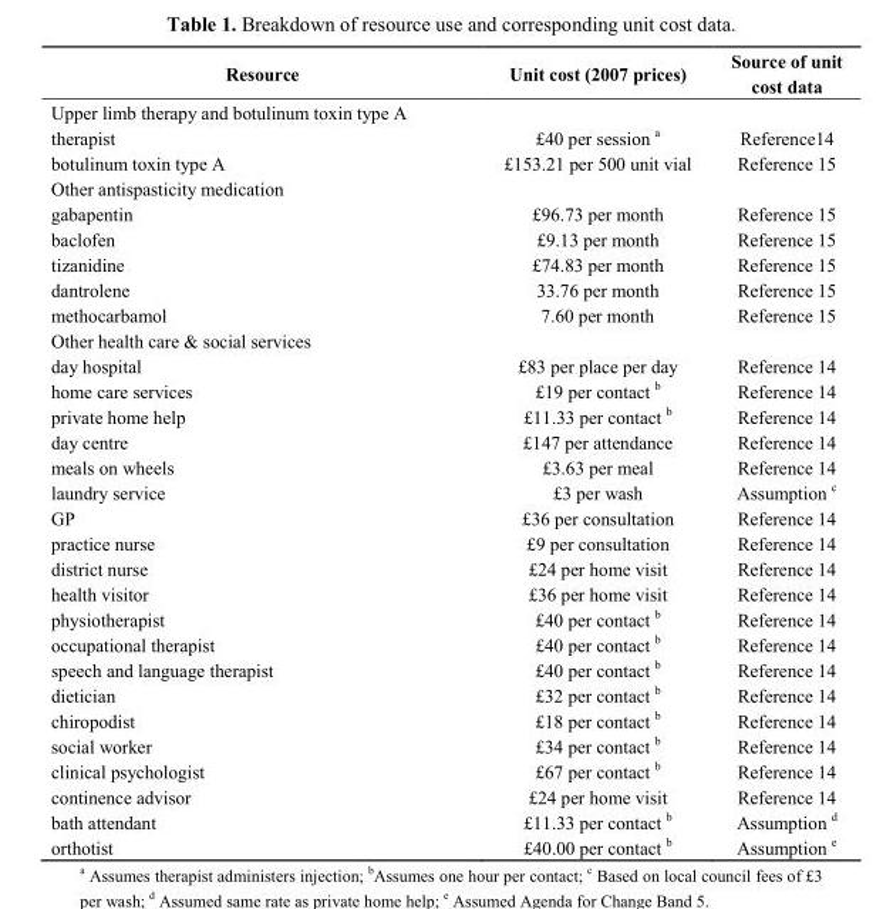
<table><thead><tr><td>Resource</td><td>Unit cost (2007 prices)</td><td>Source of unit cost data</td></tr></thead><tbody><tr><td colspan="3">Upper limb therapy and botulinum toxin type A</td></tr><tr><td>therapist</td><td>£40 per session <sup>a</sup></td><td>Reference14</td></tr><tr><td>botulinum toxin type A</td><td>£153.21 per 500 unit vial</td><td>Reference 15</td></tr><tr><td colspan="3">Other antispasticity medication</td></tr><tr><td>gabapentin</td><td>£96.73 per month</td><td>Reference 15</td></tr><tr><td>baclofen</td><td>£9.13 per month</td><td>Reference 15</td></tr><tr><td>tizanidine</td><td>£74.83 per month</td><td>Reference 15</td></tr><tr><td>dantrolene</td><td>33.76 per month</td><td>Reference 15</td></tr><tr><td>methocarbamol</td><td>7.60 per month</td><td>Reference 15</td></tr><tr><td colspan="3">Other health care &amp; social services</td></tr><tr><td>day hospital</td><td>£83 per place per day</td><td>Reference 14</td></tr><tr><td>home care services</td><td>£19 per contact <sup>b</sup></td><td>Reference 14</td></tr><tr><td>private home help</td><td>£11.33 per contact <sup>b</sup></td><td>Reference 14</td></tr><tr><td>day centre</td><td>£147 per attendance</td><td>Reference 14</td></tr><tr><td>meals on wheels</td><td>£3.63 per meal</td><td>Reference 14</td></tr><tr><td>laundry service</td><td>£3 per wash</td><td>Assumption <sup>c</sup></td></tr><tr><td>GP</td><td>£36 per consultation</td><td>Reference 14</td></tr><tr><td>practice nurse</td><td>£9 per consultation</td><td>Reference 14</td></tr><tr><td>district nurse</td><td>£24 per home visit</td><td>Reference 14</td></tr><tr><td>health visitor</td><td>£36 per home visit</td><td>Reference 14</td></tr><tr><td>physiotherapist</td><td>£40 per contact <sup>b</sup></td><td>Reference 14</td></tr><tr><td>occupational therapist</td><td>£40 per contact <sup>b</sup></td><td>Reference 14</td></tr><tr><td>speech and language therapist</td><td>£40 per contact <sup>b</sup></td><td>Reference 14</td></tr><tr><td>dietician</td><td>£32 per contact <sup>b</sup></td><td>Reference 14</td></tr><tr><td>chiropodist</td><td>£18 per contact <sup>b</sup></td><td>Reference 14</td></tr><tr><td>social worker</td><td>£34 per contact <sup>b</sup></td><td>Reference 14</td></tr><tr><td>clinical psychologist</td><td>£67 per contact <sup>b</sup></td><td>Reference 14</td></tr><tr><td>continence advisor</td><td>£24 per home visit</td><td>Reference 14</td></tr><tr><td>bath attendant</td><td>£11.33 per contact <sup>b</sup></td><td>Assumption <sup>d</sup></td></tr><tr><td>orthotist</td><td>£40.00 per contact <sup>b</sup></td><td>Assumption <sup>e</sup></td></tr></tbody></table>